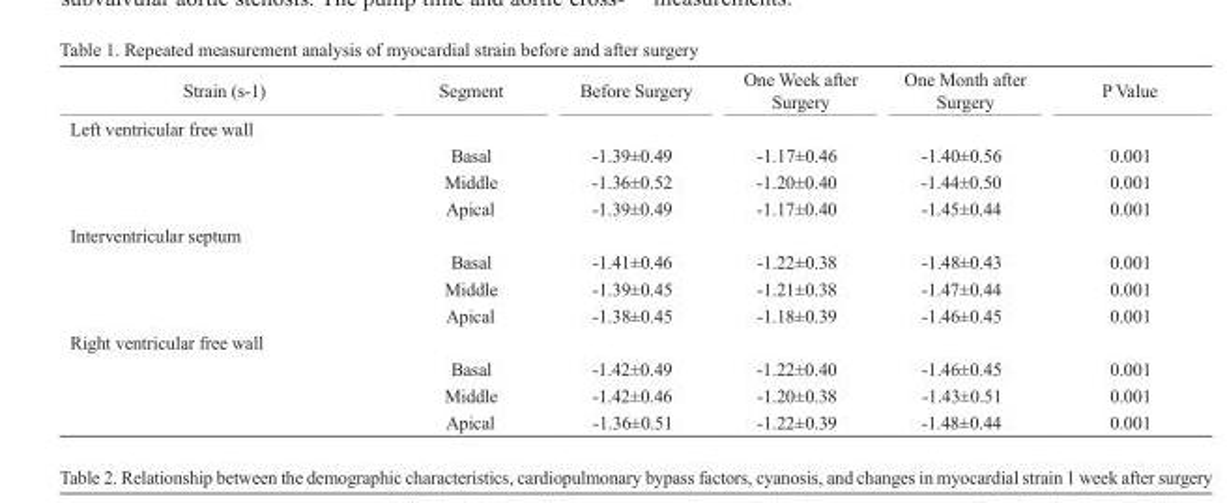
<table><thead><tr><td>Strain (s<sup>-1</sup>)</td><td>Segment</td><td>Before Surgery</td><td>One Week after Surgery</td><td>One Month after Surgery</td><td>P Value</td></tr></thead><tbody><tr><td colspan="6">Left ventricular free wall</td></tr><tr><td rowspan="3"></td><td>Basal</td><td>-1.39±0.49</td><td>-1.17±0.46</td><td>-1.40±0.56</td><td>0.001</td></tr><tr><td>Middle</td><td>-1.36±0.52</td><td>-1.20±0.40</td><td>-1.44±0.50</td><td>0.001</td></tr><tr><td>Apical</td><td>-1.39±0.49</td><td>-1.17±0.40</td><td>-1.45±0.44</td><td>0.001</td></tr><tr><td colspan="6">Interventricular septum</td></tr><tr><td rowspan="3"></td><td>Basal</td><td>-1.41±0.46</td><td>-1.22±0.38</td><td>-1.48±0.43</td><td>0.001</td></tr><tr><td>Middle</td><td>-1.39±0.45</td><td>-1.21±0.38</td><td>-1.47±0.44</td><td>0.001</td></tr><tr><td>Apical</td><td>-1.38±0.45</td><td>-1.18±0.39</td><td>-1.46±0.45</td><td>0.001</td></tr><tr><td colspan="6">Right ventricular free wall</td></tr><tr><td rowspan="3"></td><td>Basal</td><td>-1.42±0.49</td><td>-1.22±0.40</td><td>-1.46±0.45</td><td>0.001</td></tr><tr><td>Middle</td><td>-1.42±0.46</td><td>-1.20±0.38</td><td>-1.43±0.51</td><td>0.001</td></tr><tr><td>Apical</td><td>-1.36±0.51</td><td>-1.22±0.39</td><td>-1.48±0.44</td><td>0.001</td></tr></tbody></table>